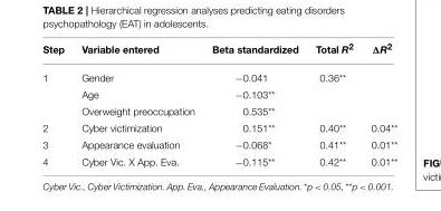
<table><thead><tr><td>Step</td><td>Variable entered</td><td>Beta standardized</td><td>Total R<sup>2</sup></td><td>ΔR<sup>2</sup></td></tr></thead><tbody><tr><td rowspan="3">1</td><td>Gender</td><td>−0.041</td><td>0.36**</td><td></td></tr><tr><td>Age</td><td>−0.103**</td><td></td><td></td></tr><tr><td>Overweight preoccupation</td><td>0.535**</td><td></td><td></td></tr><tr><td>2</td><td>Cyber victimization</td><td>0.151**</td><td>0.40**</td><td>0.04**</td></tr><tr><td>3</td><td>Appearance evaluation</td><td>−0.068*</td><td>0.41**</td><td>0.01**</td></tr><tr><td>4</td><td>Cyber Vic. X App. Eva.</td><td>−0.115**</td><td>0.42**</td><td>0.01**</td></tr></tbody></table>